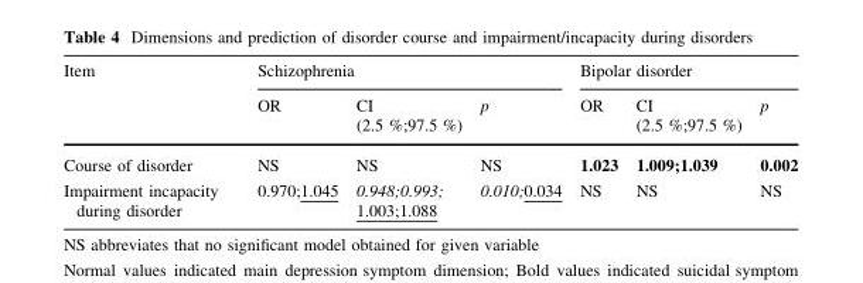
<table><thead><tr><td rowspan="2">Item</td><td colspan="3">Schizophrenia</td><td colspan="3">Bipolar disorder</td></tr><tr><td>OR</td><td>CI (2.5 %;97.5 %)</td><td>p</td><td>OR</td><td>CI (2.5 %;97.5 %)</td><td>p</td></tr></thead><tbody><tr><td>Course of disorder</td><td>NS</td><td>NS</td><td>NS</td><td>1.023</td><td>1.009;1.039</td><td>0.002</td></tr><tr><td>Impairment incapacity during disorder</td><td>0.970;1.045</td><td>0.948;0.993; 1.003;1.088</td><td>0.010;0.034</td><td>NS</td><td>NS</td><td>NS</td></tr></tbody></table>